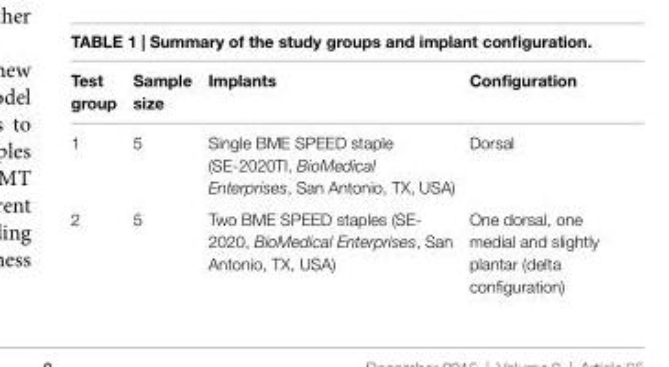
<table><thead><tr><td>Test group</td><td>sample size</td><td>implants</td><td>configuration</td></tr></thead><tbody><tr><td>1</td><td>5</td><td>Single BME SPEED staple (SE-2020TI, BioMedical Enterprises, San Antonio, TX, USA)</td><td>Dorsal</td></tr><tr><td>2</td><td>5</td><td>Two BME SPEED staples (SE- 2020, BioMedical Enterprises, San Antonio, TX, USA)</td><td>One dorsal, one medial and slightly plantar (delta configuration)</td></tr></tbody></table>